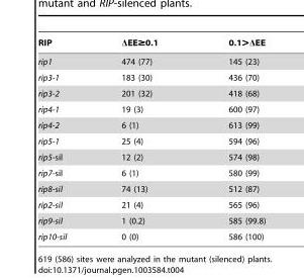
<table><thead><tr><td>RIP</td><td>ΔEE≥0.1</td><td>0.1&gt;ΔEE</td></tr></thead><tbody><tr><td>rip1</td><td>474 (77)</td><td>145 (23)</td></tr><tr><td>rip3-1</td><td>183 (30)</td><td>436 (70)</td></tr><tr><td>rip3-2</td><td>201 (32)</td><td>418 (68)</td></tr><tr><td>rip4-1</td><td>19 (3)</td><td>600 (97)</td></tr><tr><td>rip4-2</td><td>6 (1)</td><td>613 (99)</td></tr><tr><td>rip5-1</td><td>25 (4)</td><td>594 (96)</td></tr><tr><td>rip5-sil</td><td>12 (2)</td><td>574 (98)</td></tr><tr><td>rip7-sil</td><td>6 (1)</td><td>580 (99)</td></tr><tr><td>rip8-sil</td><td>74 (13)</td><td>512 (87)</td></tr><tr><td>rip2-sil</td><td>21 (4)</td><td>565 (96)</td></tr><tr><td>rip9-sil</td><td>1 (0.2)</td><td>585 (99.8)</td></tr><tr><td>rip10-sil</td><td>0 (0)</td><td>586 (100)</td></tr></tbody></table>